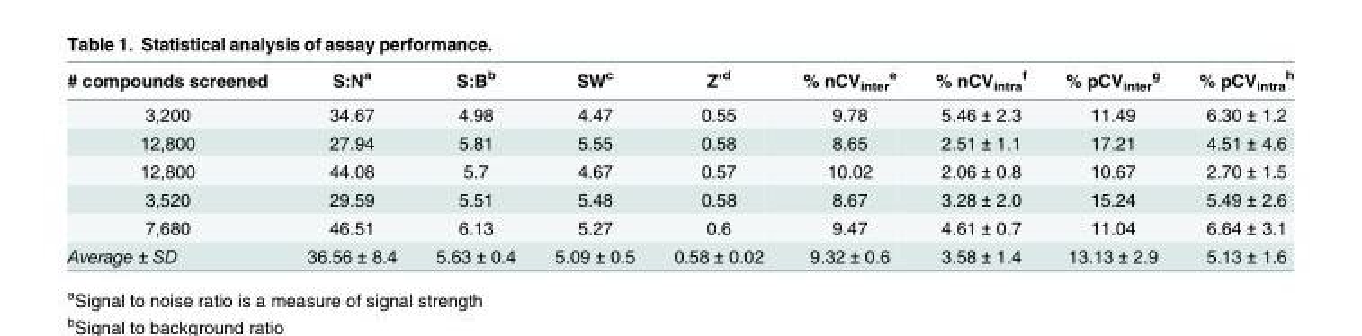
<table><thead><tr><td># compounds screened</td><td>S:N<sup>a</sup></td><td>S:B<sup>b</sup></td><td>SW<sup>c</sup></td><td>Z’<sup>d</sup></td><td>% nCV<sub>inter</sub> <sup>e</sup></td><td>% nCV<sub>intra</sub> <sup>f</sup></td><td>% pCV<sub>inter</sub> <sup>g</sup></td><td>% pCV<sub>intra</sub> <sup>h</sup></td></tr></thead><tbody><tr><td>3,200</td><td>34.67</td><td>4.98</td><td>4.47</td><td>0.55</td><td>9.78</td><td>5.46 ± 2.3</td><td>11.49</td><td>6.30 ± 1.2</td></tr><tr><td>12,800</td><td>27.94</td><td>5.81</td><td>5.55</td><td>0.58</td><td>8.65</td><td>2.51 ± 1.1</td><td>17.21</td><td>4.51 ± 4.6</td></tr><tr><td>12,800</td><td>44.08</td><td>5.7</td><td>4.67</td><td>0.57</td><td>10.02</td><td>2.06 ± 0.8</td><td>10.67</td><td>2.70 ± 1.5</td></tr><tr><td>3,520</td><td>29.59</td><td>5.51</td><td>5.48</td><td>0.58</td><td>8.67</td><td>3.28 ± 2.0</td><td>15.24</td><td>5.49 ± 2.6</td></tr><tr><td>7,680</td><td>46.51</td><td>6.13</td><td>5.27</td><td>0.6</td><td>9.47</td><td>4.61 ± 0.7</td><td>11.04</td><td>6.64 ± 3.1</td></tr><tr><td>Average ± SD</td><td>36.56 ± 8.4</td><td>5.63 ± 0.4</td><td>5.09 ± 0.5</td><td>0.58 ± 0.02</td><td>9.32 ± 0.6</td><td>3.58 ± 1.4</td><td>13.13 ± 2.9</td><td>5.13 ± 1.6</td></tr></tbody></table>